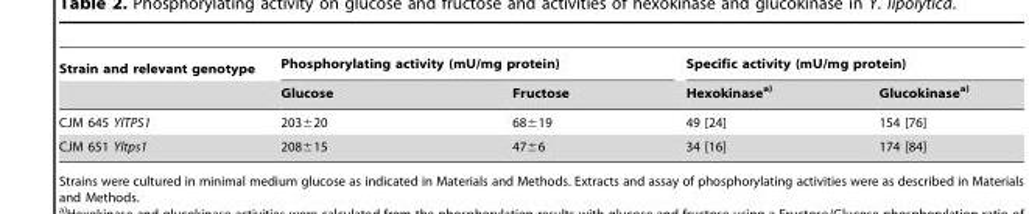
<table><thead><tr><td rowspan="2">Strain and relevant genotype</td><td colspan="2">Phosphorylating activity (mU/mg protein)</td><td colspan="2">Specific activity (mU/mg protein)</td></tr><tr><td>Glucose</td><td>Fructose</td><td>Hexokinasea)</td><td>Glucokinasea)</td></tr></thead><tbody><tr><td>CJM 645 YlTPS1</td><td>203±20</td><td>68±19</td><td>49 [24]</td><td>154 [76]</td></tr><tr><td>CJM 651 Yltps1</td><td>208±15</td><td>47±6</td><td>34 [16]</td><td>174 [84]</td></tr></tbody></table>